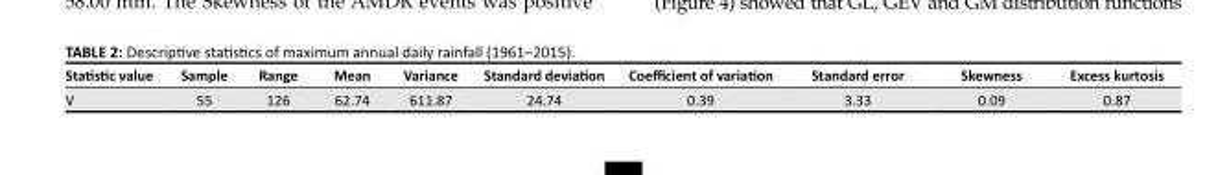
<table><thead><tr><td>Statistic value</td><td>Sample</td><td>Range</td><td>Mean</td><td>Variance</td><td>Standard deviation</td><td>Coefficient of variation</td><td>Standard error</td><td>Skewness</td><td>Excess kurtosis</td></tr></thead><tbody><tr><td>V</td><td>55</td><td>126</td><td>62.74</td><td>611.87</td><td>24.74</td><td>0.39</td><td>3.33</td><td>0.09</td><td>0.87</td></tr></tbody></table>